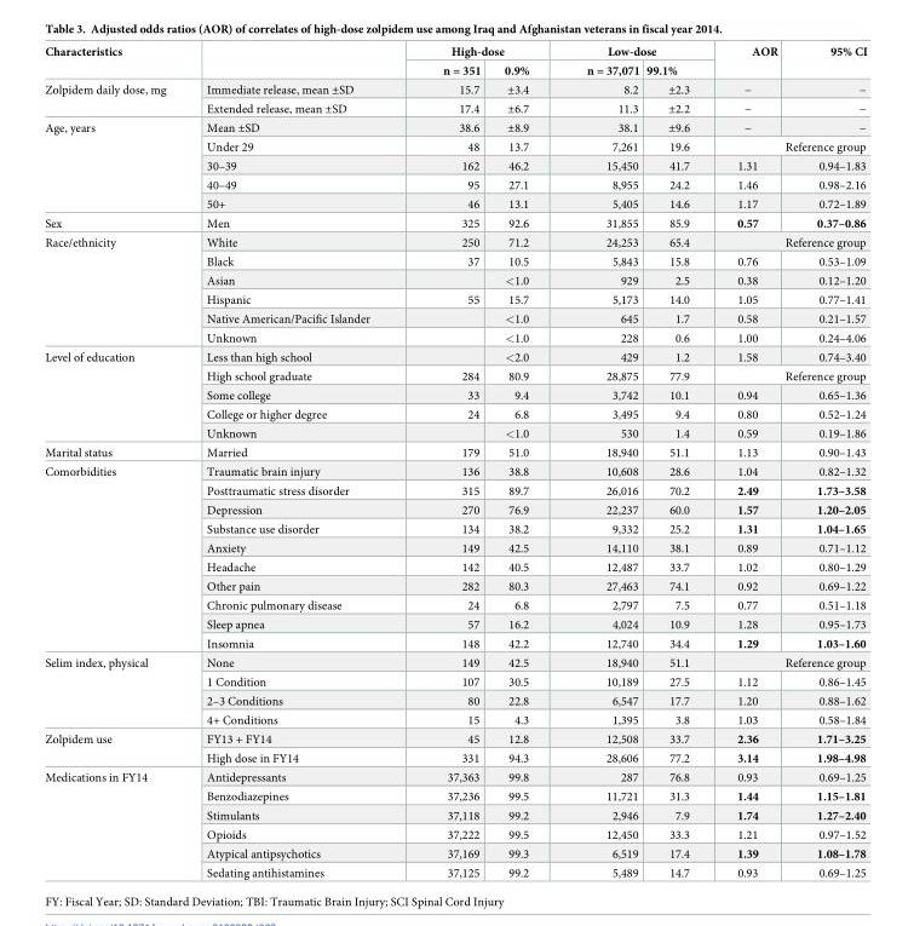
<table><thead><tr><td rowspan="2">Characteristics</td><td rowspan="2"></td><td colspan="2">High-dose</td><td colspan="2">Low-dose</td><td rowspan="2">AOR</td><td rowspan="2">95% CI</td></tr><tr><td>n = 351</td><td>0.9%</td><td>n = 37,071</td><td>99.1%</td></tr></thead><tbody><tr><td rowspan="2">Zolpidem daily dose, mg</td><td>Immediate release, mean ±SD</td><td>15.7</td><td>±3.4</td><td>8.2</td><td>±2.3</td><td>−</td><td>−</td></tr><tr><td>Extended release, mean ±SD</td><td>17.4</td><td>±6.7</td><td>11.3</td><td>±2.2</td><td>−</td><td>−</td></tr><tr><td rowspan="5">Age, years</td><td>Mean ±SD</td><td>38.6</td><td>±8.9</td><td>38.1</td><td>±9.6</td><td>−</td><td>−</td></tr><tr><td>Under 29</td><td>48</td><td>13.7</td><td>7,261</td><td>19.6</td><td colspan="2">Reference group</td></tr><tr><td>30–39</td><td>162</td><td>46.2</td><td>15,450</td><td>41.7</td><td>1.31</td><td>0.94–1.83</td></tr><tr><td>40–49</td><td>95</td><td>27.1</td><td>8,955</td><td>24.2</td><td>1.46</td><td>0.98–2.16</td></tr><tr><td>50+</td><td>46</td><td>13.1</td><td>5,405</td><td>14.6</td><td>1.17</td><td>0.72–1.89</td></tr><tr><td>Sex</td><td>Men</td><td>325</td><td>92.6</td><td>31,855</td><td>85.9</td><td>0.57</td><td>0.37–0.86</td></tr><tr><td rowspan="6">Race/ethnicity</td><td>White</td><td>250</td><td>71.2</td><td>24,253</td><td>65.4</td><td colspan="2">Reference group</td></tr><tr><td>Black</td><td>37</td><td>10.5</td><td>5,843</td><td>15.8</td><td>0.76</td><td>0.53–1.09</td></tr><tr><td>Asian</td><td></td><td>&lt;1.0</td><td>929</td><td>2.5</td><td>0.38</td><td>0.12–1.20</td></tr><tr><td>Hispanic</td><td>55</td><td>15.7</td><td>5,173</td><td>14.0</td><td>1.05</td><td>0.77–1.41</td></tr><tr><td>Native American/Pacific Islander</td><td></td><td>&lt;1.0</td><td>645</td><td>1.7</td><td>0.58</td><td>0.21–1.57</td></tr><tr><td>Unknown</td><td></td><td>&lt;1.0</td><td>228</td><td>0.6</td><td>1.00</td><td>0.24–4.06</td></tr><tr><td rowspan="5">Level of education</td><td>Less than high school</td><td></td><td>&lt;2.0</td><td>429</td><td>1.2</td><td>1.58</td><td>0.74–3.40</td></tr><tr><td>High school graduate</td><td>284</td><td>80.9</td><td>28,875</td><td>77.9</td><td colspan="2">Reference group</td></tr><tr><td>Some college</td><td>33</td><td>9.4</td><td>3,742</td><td>10.1</td><td>0.94</td><td>0.65–1.36</td></tr><tr><td>College or higher degree</td><td>24</td><td>6.8</td><td>3,495</td><td>9.4</td><td>0.80</td><td>0.52–1.24</td></tr><tr><td>Unknown</td><td></td><td>&lt;1.0</td><td>530</td><td>1.4</td><td>0.59</td><td>0.19–1.86</td></tr><tr><td>Marital status</td><td>Married</td><td>179</td><td>51.0</td><td>18,940</td><td>51.1</td><td>1.13</td><td>0.90–1.43</td></tr><tr><td rowspan="10">Comorbidities</td><td>Traumatic brain injury</td><td>136</td><td>38.8</td><td>10,608</td><td>28.6</td><td>1.04</td><td>0.82–1.32</td></tr><tr><td>Posttraumatic stress disorder</td><td>315</td><td>89.7</td><td>26,016</td><td>70.2</td><td>2.49</td><td>1.73–3.58</td></tr><tr><td>Depression</td><td>270</td><td>76.9</td><td>22,237</td><td>60.0</td><td>1.57</td><td>1.20–2.05</td></tr><tr><td>Substance use disorder</td><td>134</td><td>38.2</td><td>9,332</td><td>25.2</td><td>1.31</td><td>1.04–1.65</td></tr><tr><td>Anxiety</td><td>149</td><td>42.5</td><td>14,110</td><td>38.1</td><td>0.89</td><td>0.71–1.12</td></tr><tr><td>Headache</td><td>142</td><td>40.5</td><td>12,487</td><td>33.7</td><td>1.02</td><td>0.80–1.29</td></tr><tr><td>Other pain</td><td>282</td><td>80.3</td><td>27,463</td><td>74.1</td><td>0.92</td><td>0.69–1.22</td></tr><tr><td>Chronic pulmonary disease</td><td>24</td><td>6.8</td><td>2,797</td><td>7.5</td><td>0.77</td><td>0.51–1.18</td></tr><tr><td>Sleep apnea</td><td>57</td><td>16.2</td><td>4,024</td><td>10.9</td><td>1.28</td><td>0.95–1.73</td></tr><tr><td>Insomnia</td><td>148</td><td>42.2</td><td>12,740</td><td>34.4</td><td>1.29</td><td>1.03–1.60</td></tr><tr><td rowspan="4">Selim index, physical</td><td>None</td><td>149</td><td>42.5</td><td>18,940</td><td>51.1</td><td colspan="2">Reference group</td></tr><tr><td>1 Condition</td><td>107</td><td>30.5</td><td>10,189</td><td>27.5</td><td>1.12</td><td>0.86–1.45</td></tr><tr><td>2–3 Conditions</td><td>80</td><td>22.8</td><td>6,547</td><td>17.7</td><td>1.20</td><td>0.88–1.62</td></tr><tr><td>4+ Conditions</td><td>15</td><td>4.3</td><td>1,395</td><td>3.8</td><td>1.03</td><td>0.58–1.84</td></tr><tr><td rowspan="2">Zolpidem use</td><td>FY13 + FY14</td><td>45</td><td>12.8</td><td>12,508</td><td>33.7</td><td>2.36</td><td>1.71–3.25</td></tr><tr><td>High dose in FY14</td><td>331</td><td>94.3</td><td>28,606</td><td>77.2</td><td>3.14</td><td>1.98–4.98</td></tr><tr><td rowspan="6">Medications in FY14</td><td>Antidepressants</td><td>37,363</td><td>99.8</td><td>287</td><td>76.8</td><td>0.93</td><td>0.69–1.25</td></tr><tr><td>Benzodiazepines</td><td>37,236</td><td>99.5</td><td>11,721</td><td>31.3</td><td>1.44</td><td>1.15–1.81</td></tr><tr><td>Stimulants</td><td>37,118</td><td>99.2</td><td>2,946</td><td>7.9</td><td>1.74</td><td>1.27–2.40</td></tr><tr><td>Opioids</td><td>37,222</td><td>99.5</td><td>12,450</td><td>33.3</td><td>1.21</td><td>0.97–1.52</td></tr><tr><td>Atypical antipsychotics</td><td>37,169</td><td>99.3</td><td>6,519</td><td>17.4</td><td>1.39</td><td>1.08–1.78</td></tr><tr><td>Sedating antihistamines</td><td>37,125</td><td>99.2</td><td>5,489</td><td>14.7</td><td>0.93</td><td>0.69–1.25</td></tr></tbody></table>